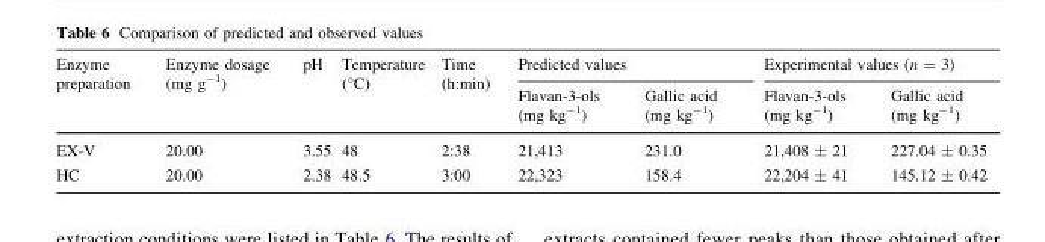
<table><thead><tr><td rowspan="2">Enzyme preparation</td><td rowspan="2">Enzyme dosage (mg g<sup>-1</sup>)</td><td rowspan="2">pH</td><td rowspan="2">Temperature (°C)</td><td rowspan="2">Time (h:min)</td><td colspan="2">Predicted values</td><td colspan="2">Experimental values (n = 3)</td></tr><tr><td>Flavan-3-ols (mg kg<sup>-1</sup>)</td><td>Gallic acid (mg kg<sup>-1</sup>)</td><td>Flavan-3-ols (mg kg<sup>-1</sup>)</td><td>Gallic acid (mg kg<sup>-1</sup>)</td></tr></thead><tbody><tr><td>EX-V</td><td>20.00</td><td>3.55</td><td>48</td><td>2:38</td><td>21,413</td><td>231.0</td><td>21,408 ± 21</td><td>227.04 ± 0.35</td></tr><tr><td>HC</td><td>20.00</td><td>2.38</td><td>48.5</td><td>3:00</td><td>22,323</td><td>158.4</td><td>22,204 ± 41</td><td>145.12 ± 0.42</td></tr></tbody></table>